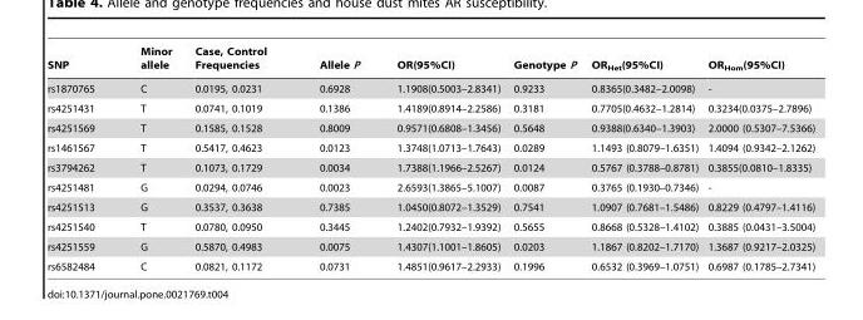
<table><thead><tr><td>SNP</td><td>Minor allele</td><td>Case, Control Frequencies</td><td>Allele P</td><td>OR(95%CI)</td><td>Genotype P</td><td>OR<sub>Het</sub>(95%CI)</td><td>OR<sub>Hom</sub>(95%CI)</td></tr></thead><tbody><tr><td>rs1870765</td><td>C</td><td>0.0195, 0.0231</td><td>0.6928</td><td>1.1908(0.5003–2.8341)</td><td>0.9233</td><td>0.8365(0.3482–2.0098)</td><td>-</td></tr><tr><td>rs4251431</td><td>T</td><td>0.0741, 0.1019</td><td>0.1386</td><td>1.4189(0.8914–2.2586)</td><td>0.3181</td><td>0.7705(0.4632–1.2814)</td><td>0.3234(0.0375–2.7896)</td></tr><tr><td>rs4251569</td><td>T</td><td>0.1585, 0.1528</td><td>0.8009</td><td>0.9571(0.6808–1.3456)</td><td>0.5648</td><td>0.9388(0.6340–1.3903)</td><td>2.0000 (0.5307–7.5366)</td></tr><tr><td>rs1461567</td><td>T</td><td>0.5417, 0.4623</td><td>0.0123</td><td>1.3748(1.0713–1.7643)</td><td>0.0289</td><td>1.1493 (0.8079–1.6351)</td><td>1.4094 (0.9342–2.1262)</td></tr><tr><td>rs3794262</td><td>T</td><td>0.1073, 0.1729</td><td>0.0034</td><td>1.7388(1.1966–2.5267)</td><td>0.0124</td><td>0.5767 (0.3788–0.8781)</td><td>0.3855(0.0810–1.8335)</td></tr><tr><td>rs4251481</td><td>G</td><td>0.0294, 0.0746</td><td>0.0023</td><td>2.6593(1.3865–5.1007)</td><td>0.0087</td><td>0.3765 (0.1930–0.7346)</td><td>-</td></tr><tr><td>rs4251513</td><td>G</td><td>0.3537, 0.3638</td><td>0.7385</td><td>1.0450(0.8072–1.3529)</td><td>0.7541</td><td>1.0907 (0.7681–1.5486)</td><td>0.8229 (0.4797–1.4116)</td></tr><tr><td>rs4251540</td><td>T</td><td>0.0780, 0.0950</td><td>0.3445</td><td>1.2402(0.7932–1.9392)</td><td>0.5655</td><td>0.8668 (0.5328–1.4102)</td><td>0.3885 (0.0431–3.5004)</td></tr><tr><td>rs4251559</td><td>G</td><td>0.5870, 0.4983</td><td>0.0075</td><td>1.4307(1.1001–1.8605)</td><td>0.0203</td><td>1.1867 (0.8202–1.7170)</td><td>1.3687 (0.9217–2.0325)</td></tr><tr><td>rs6582484</td><td>C</td><td>0.0821, 0.1172</td><td>0.0731</td><td>1.4851(0.9617–2.2933)</td><td>0.1996</td><td>0.6532 (0.3969–1.0751)</td><td>0.6987 (0.1785–2.7341)</td></tr></tbody></table>